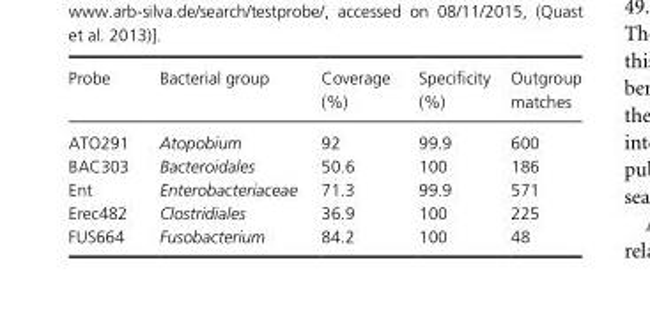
<table><thead><tr><td>Probe</td><td>Bacterial group</td><td>Coverage (%)</td><td>Specificity (%)</td><td>Outgroup matches</td></tr></thead><tbody><tr><td>ATO291</td><td>Atopobium</td><td>92</td><td>99.9</td><td>600</td></tr><tr><td>BAC303</td><td>Bacteroidales</td><td>50.6</td><td>100</td><td>186</td></tr><tr><td>Ent</td><td>Enterobacteriaceae</td><td>71.3</td><td>99.9</td><td>571</td></tr><tr><td>Erec482</td><td>Clostridiales</td><td>36.9</td><td>100</td><td>225</td></tr><tr><td>FUS664</td><td>Fusobacterium</td><td>84.2</td><td>100</td><td>48</td></tr></tbody></table>